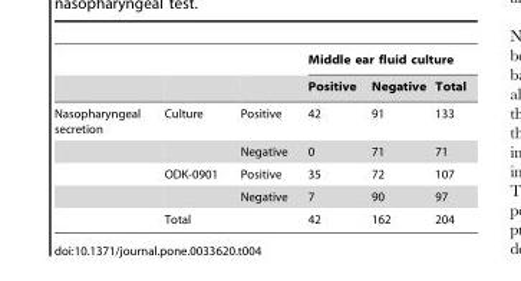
<table><thead><tr><td rowspan="2"></td><td rowspan="2"></td><td rowspan="2"></td><td colspan="3">Middle ear fluid culture</td></tr><tr><td>Positive</td><td>Negative</td><td>Total</td></tr></thead><tbody><tr><td rowspan="5">Nasopharyngeal secretion</td><td>Culture</td><td>Positive</td><td>42</td><td>91</td><td>133</td></tr><tr><td></td><td>Negative</td><td>0</td><td>71</td><td>71</td></tr><tr><td>ODK-0901</td><td>Positive</td><td>35</td><td>72</td><td>107</td></tr><tr><td></td><td>Negative</td><td>7</td><td>90</td><td>97</td></tr><tr><td>Total</td><td></td><td>42</td><td>162</td><td>204</td></tr></tbody></table>